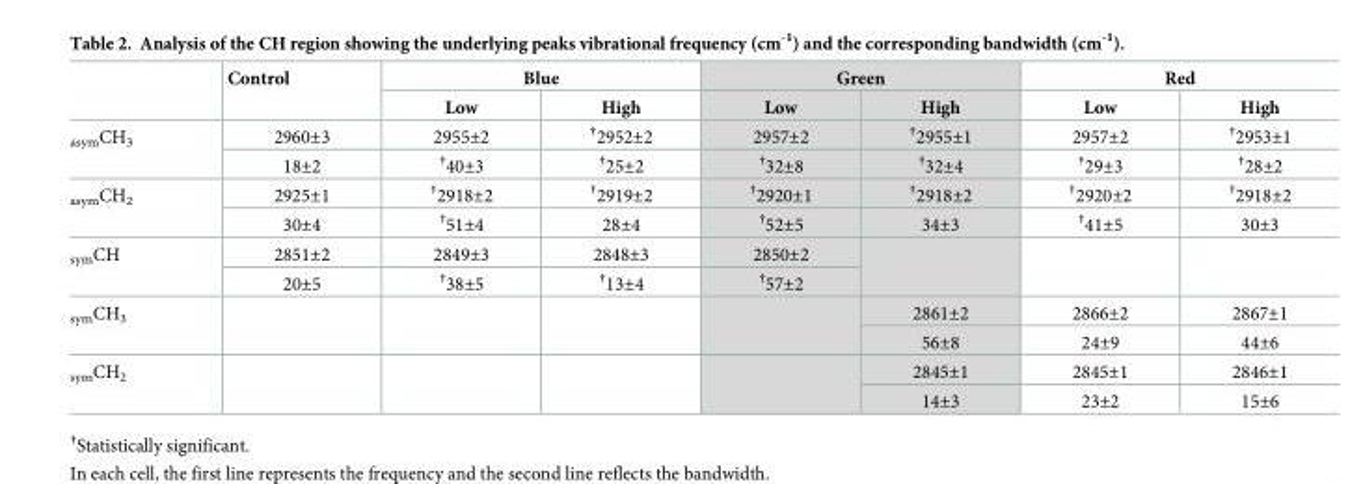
<table><thead><tr><td rowspan="2"></td><td rowspan="2">Control</td><td colspan="2">Blue</td><td colspan="2">Green</td><td colspan="2">Red</td></tr><tr><td>Low</td><td>High</td><td>Low</td><td>High</td><td>Low</td><td>High</td></tr></thead><tbody><tr><td rowspan="2"><sub>asym</sub>CH<sub>3</sub></td><td>2960±3</td><td>2955±2</td><td><sup>†</sup>2952±2</td><td>2957±2</td><td><sup>†</sup>2955±1</td><td>2957±2</td><td><sup>†</sup>2953±1</td></tr><tr><td>18±2</td><td><sup>†</sup>40±3</td><td><sup>†</sup>25±2</td><td><sup>†</sup>32±8</td><td><sup>†</sup>32±4</td><td><sup>†</sup>29±3</td><td><sup>†</sup>28±2</td></tr><tr><td rowspan="2"><sub>asym</sub>CH<sub>2</sub></td><td>2925±1</td><td><sup>†</sup>2918±2</td><td><sup>†</sup>2919±2</td><td><sup>†</sup>2920±1</td><td><sup>†</sup>2918±2</td><td><sup>†</sup>2920±2</td><td><sup>†</sup>2918±2</td></tr><tr><td>30±4</td><td><sup>†</sup>51±4</td><td>28±4</td><td><sup>†</sup>52±5</td><td>34±3</td><td><sup>†</sup>41±5</td><td>30±3</td></tr><tr><td rowspan="2"><sub>sym</sub>CH</td><td>2851±2</td><td>2849±3</td><td>2848±3</td><td>2850±2</td><td rowspan="2"></td><td rowspan="2"></td><td rowspan="2"></td></tr><tr><td>20±5</td><td><sup>†</sup>38±5</td><td><sup>†</sup>13±4</td><td><sup>†</sup>57±2</td></tr><tr><td rowspan="2"><sub>sym</sub>CH<sub>3</sub></td><td rowspan="2"></td><td rowspan="2"></td><td rowspan="2"></td><td rowspan="2"></td><td>2861±2</td><td>2866±2</td><td>2867±1</td></tr><tr><td>56±8</td><td>24±9</td><td>44±6</td></tr><tr><td rowspan="2"><sub>sym</sub>CH<sub>2</sub></td><td rowspan="2"></td><td rowspan="2"></td><td rowspan="2"></td><td rowspan="2"></td><td>2845±1</td><td>2845±1</td><td>2846±1</td></tr><tr><td>14±3</td><td>23±2</td><td>15±6</td></tr></tbody></table>